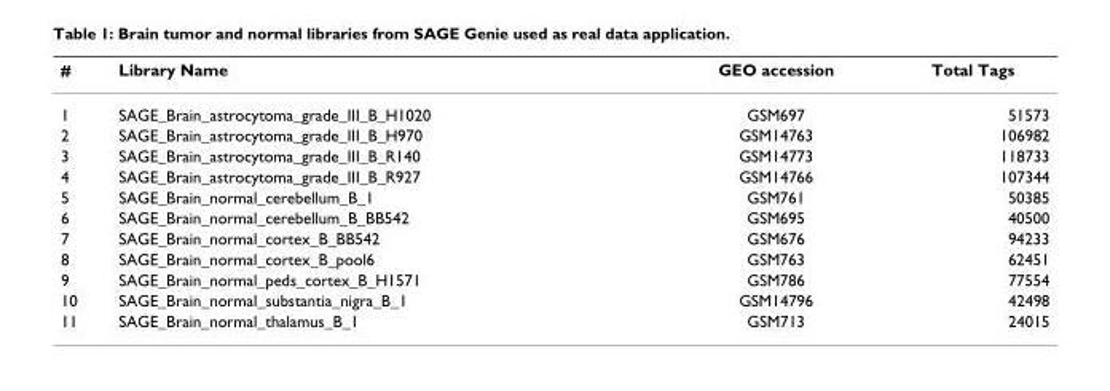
<table><thead><tr><td>#</td><td>Library Name</td><td>GEO accession</td><td>Total Tags</td></tr></thead><tbody><tr><td>1</td><td>SAGE_Brain_astrocytoma_grade_III_B_H1020</td><td>GSM697</td><td>51573</td></tr><tr><td>2</td><td>SAGE_Brain_astrocytoma_grade_III_B_H970</td><td>GSM14763</td><td>106982</td></tr><tr><td>3</td><td>SAGE_Brain_astrocytoma_grade_III_B_R140</td><td>GSM14773</td><td>118733</td></tr><tr><td>4</td><td>SAGE_Brain_astrocytoma_grade_III_B_R927</td><td>GSM14766</td><td>107344</td></tr><tr><td>5</td><td>SAGE_Brain_normal_cerebellum_B_1</td><td>GSM761</td><td>50385</td></tr><tr><td>6</td><td>SAGE_Brain_normal_cerebellum_B_BB542</td><td>GSM695</td><td>40500</td></tr><tr><td>7</td><td>SAGE_Brain_normal_cortex_B_BB542</td><td>GSM676</td><td>94233</td></tr><tr><td>8</td><td>SAGE_Brain_normal_cortex_B_pool6</td><td>GSM763</td><td>62451</td></tr><tr><td>9</td><td>SAGE_Brain_normal_peds_cortex_B_H1571</td><td>GSM786</td><td>77554</td></tr><tr><td>10</td><td>SAGE_Brain_normal_substantia_nigra_B_1</td><td>GSM14796</td><td>42498</td></tr><tr><td>11</td><td>SAGE_Brain_normal_thalamus_B_1</td><td>GSM713</td><td>24015</td></tr></tbody></table>